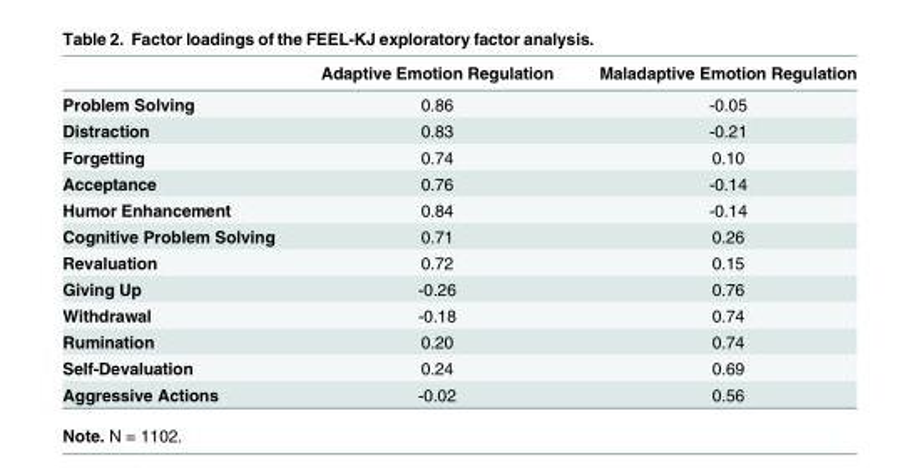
<table><thead><tr><td></td><td>Adaptive Emotion Regulation</td><td>Maladaptive Emotion Regulation</td></tr></thead><tbody><tr><td>Problem Solving</td><td>0.86</td><td>-0.05</td></tr><tr><td>Distraction</td><td>0.83</td><td>-0.21</td></tr><tr><td>Forgetting</td><td>0.74</td><td>0.10</td></tr><tr><td>Acceptance</td><td>0.76</td><td>-0.14</td></tr><tr><td>Humor Enhancement</td><td>0.84</td><td>-0.14</td></tr><tr><td>Cognitive Problem Solving</td><td>0.71</td><td>0.26</td></tr><tr><td>Revaluation</td><td>0.72</td><td>0.15</td></tr><tr><td>Giving Up</td><td>-0.26</td><td>0.76</td></tr><tr><td>Withdrawal</td><td>-0.18</td><td>0.74</td></tr><tr><td>Rumination</td><td>0.20</td><td>0.74</td></tr><tr><td>Self-Devaluation</td><td>0.24</td><td>0.69</td></tr><tr><td>Aggressive Actions</td><td>-0.02</td><td>0.56</td></tr></tbody></table>